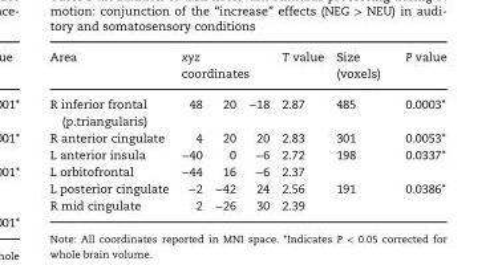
<table><thead><tr><td rowspan="2">Area R inferior frontal (p.triangularis)</td><td colspan="3">xyz coordinates</td><td rowspan="2">T value 2.87</td><td rowspan="2">Size (voxels) 485</td><td rowspan="2">P value 0.0003*</td></tr><tr><td>48</td><td>20</td><td>−18</td></tr></thead><tbody><tr><td>R anterior cingulate</td><td>4</td><td>20</td><td>20</td><td>2.83</td><td>301</td><td>0.0053*</td></tr><tr><td>L anterior insula</td><td>−40</td><td>0</td><td>−6</td><td>2.72</td><td>198</td><td>0.0337*</td></tr><tr><td>L orbitofrontal</td><td>−44</td><td>16</td><td>−6</td><td>2.37</td><td></td><td></td></tr><tr><td>L posterior cingulate</td><td>−2</td><td>−42</td><td>24</td><td>2.56</td><td>191</td><td>0.0386*</td></tr><tr><td>R mid cingulate</td><td>2</td><td>−26</td><td>30</td><td>2.39</td><td></td><td></td></tr></tbody></table>